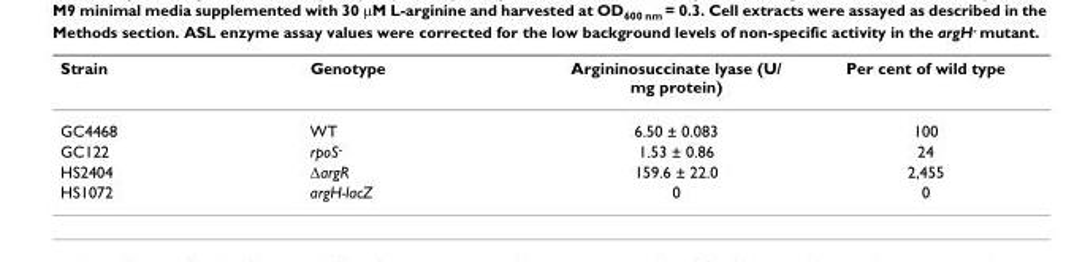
<table><thead><tr><td>Strain</td><td>Genotype</td><td>Argininosuccinate lyase (U/ mg protein)</td><td>Per cent of wild type</td></tr></thead><tbody><tr><td>GC4468</td><td>WT</td><td>6.50 ± 0.083</td><td>100</td></tr><tr><td>GC122</td><td>rpoS-</td><td>1.53 ± 0.86</td><td>24</td></tr><tr><td>HS2404</td><td>∆argR</td><td>159.6 ± 22.0</td><td>2,455</td></tr><tr><td>HS1072</td><td>argH-lacZ</td><td>0</td><td>0</td></tr></tbody></table>